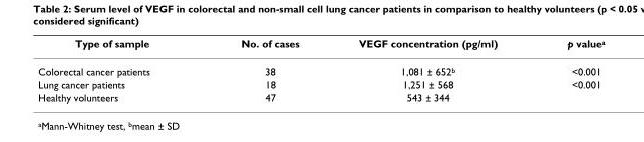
<table><thead><tr><td>Type of sample</td><td>No. of cases</td><td>VEGF concentration (pg/ml)</td><td>p value<sup>a</sup></td></tr></thead><tbody><tr><td>Colorectal cancer patients</td><td>38</td><td>1,081 ± 652<sup>b</sup></td><td>&lt;0.001</td></tr><tr><td>Lung cancer patients</td><td>18</td><td>1,251 ± 568</td><td>&lt;0.001</td></tr><tr><td>Healthy volunteers</td><td>47</td><td>543 ± 344</td><td></td></tr></tbody></table>